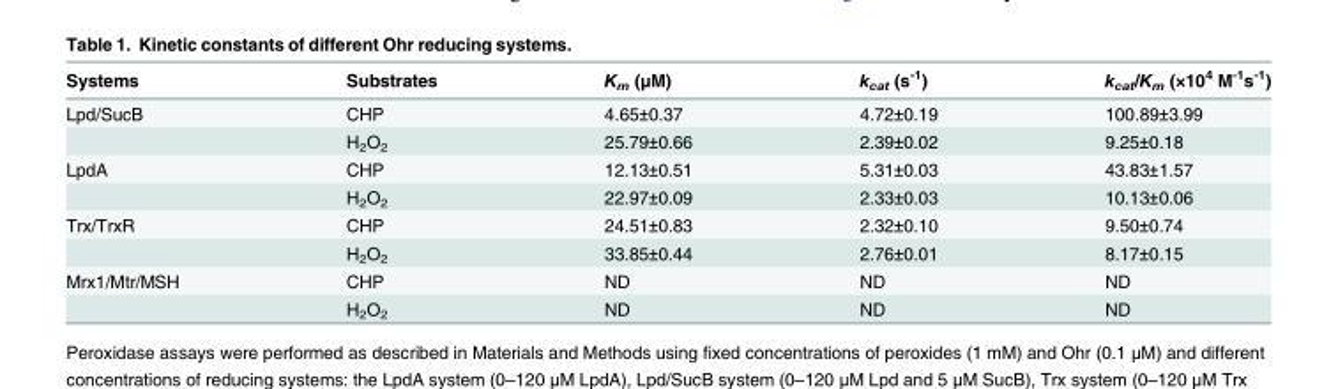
<table><thead><tr><td>Systems</td><td>Substrates</td><td>K<sub>m</sub> (μM)</td><td>k<sub>cat</sub> (s<sup>-1</sup>)</td><td>k<sub>cat</sub>/K<sub>m</sub> (×10<sup>4</sup> M<sup>-1</sup>s<sup>-1</sup>)</td></tr></thead><tbody><tr><td rowspan="2">Lpd/SucB</td><td>CHP</td><td>4.65±0.37</td><td>4.72±0.19</td><td>100.89±3.99</td></tr><tr><td>H<sub>2</sub>O<sub>2</sub></td><td>25.79±0.66</td><td>2.39±0.02</td><td>9.25±0.18</td></tr><tr><td rowspan="2">LpdA</td><td>CHP</td><td>12.13±0.51</td><td>5.31±0.03</td><td>43.83±1.57</td></tr><tr><td>H<sub>2</sub>O<sub>2</sub></td><td>22.97±0.09</td><td>2.33±0.03</td><td>10.13±0.06</td></tr><tr><td rowspan="2">Trx/TrxR</td><td>CHP</td><td>24.51±0.83</td><td>2.32±0.10</td><td>9.50±0.74</td></tr><tr><td>H<sub>2</sub>O<sub>2</sub></td><td>33.85±0.44</td><td>2.76±0.01</td><td>8.17±0.15</td></tr><tr><td rowspan="2">Mrx1/Mtr/MSH</td><td>CHP</td><td>ND</td><td>ND</td><td>ND</td></tr><tr><td>H<sub>2</sub>O<sub>2</sub></td><td>ND</td><td>ND</td><td>ND</td></tr></tbody></table>